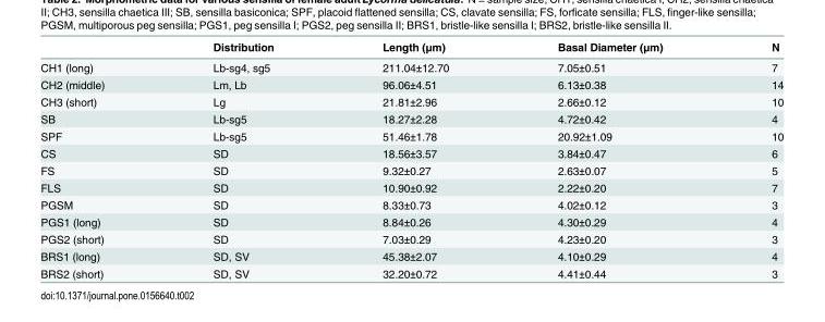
<table><thead><tr><td></td><td>Distribution</td><td>Length (μm)</td><td>Basal Diameter (μm)</td><td>N</td></tr></thead><tbody><tr><td>CH1 (long)</td><td>Lb-sg4, sg5</td><td>211.04±12.70</td><td>7.05±0.51</td><td>7</td></tr><tr><td>CH2 (middle)</td><td>Lm, Lb</td><td>96.06±4.51</td><td>6.13±0.38</td><td>14</td></tr><tr><td>CH3 (short)</td><td>Lg</td><td>21.81±2.96</td><td>2.66±0.12</td><td>10</td></tr><tr><td>SB</td><td>Lb-sg5</td><td>18.27±2.28</td><td>4.72±0.42</td><td>4</td></tr><tr><td>SPF</td><td>Lb-sg5</td><td>51.46±1.78</td><td>20.92±1.09</td><td>10</td></tr><tr><td>CS</td><td>SD</td><td>18.56±3.57</td><td>3.84±0.47</td><td>6</td></tr><tr><td>FS</td><td>SD</td><td>9.32±0.27</td><td>2.63±0.07</td><td>5</td></tr><tr><td>FLS</td><td>SD</td><td>10.90±0.92</td><td>2.22±0.20</td><td>7</td></tr><tr><td>PGSM</td><td>SD</td><td>8.33±0.73</td><td>4.02±0.12</td><td>3</td></tr><tr><td>PGS1 (long)</td><td>SD</td><td>8.84±0.26</td><td>4.30±0.29</td><td>4</td></tr><tr><td>PGS2 (short)</td><td>SD</td><td>7.03±0.29</td><td>4.23±0.20</td><td>3</td></tr><tr><td>BRS1 (long)</td><td>SD, SV</td><td>45.38±2.07</td><td>4.10±0.29</td><td>4</td></tr><tr><td>BRS2 (short)</td><td>SD, SV</td><td>32.20±0.72</td><td>4.41±0.44</td><td>3</td></tr></tbody></table>